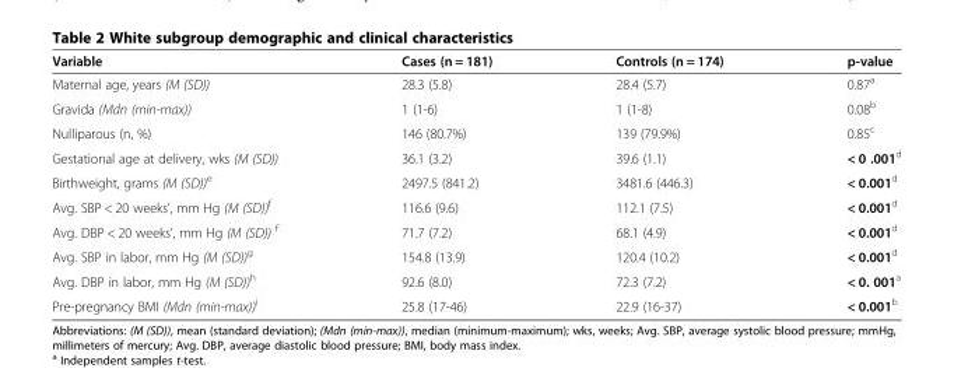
<table><thead><tr><td>Variable</td><td>Cases (n = 181)</td><td>Controls (n = 174)</td><td>p-value</td></tr></thead><tbody><tr><td>Maternal age, years (M (SD))</td><td>28.3 (5.8)</td><td>28.4 (5.7)</td><td>0.87<sup>a</sup></td></tr><tr><td>Gravida (Mdn (min-max))</td><td>1 (1-6)</td><td>1 (1-8)</td><td>0.08<sup>b</sup></td></tr><tr><td>Nulliparous (n, %)</td><td>146 (80.7%)</td><td>139 (79.9%)</td><td>0.85<sup>c</sup></td></tr><tr><td>Gestational age at delivery, wks (M (SD))</td><td>36.1 (3.2)</td><td>39.6 (1.1)</td><td>&lt; 0 .001<sup>d</sup></td></tr><tr><td>Birthweight, grams (M (SD))<sup>e</sup></td><td>2497.5 (841.2)</td><td>3481.6 (446.3)</td><td>&lt; 0.001<sup>d</sup></td></tr><tr><td>Avg. SBP &lt; 20 weeks’, mm Hg (M (SD))<sup>f</sup></td><td>116.6 (9.6)</td><td>112.1 (7.5)</td><td>&lt; 0.001<sup>d</sup></td></tr><tr><td>Avg. DBP &lt; 20 weeks’, mm Hg (M (SD)) <sup>f</sup></td><td>71.7 (7.2)</td><td>68.1 (4.9)</td><td>&lt; 0.001<sup>d</sup></td></tr><tr><td>Avg. SBP in labor, mm Hg (M (SD))<sup>g</sup></td><td>154.8 (13.9)</td><td>120.4 (10.2)</td><td>&lt; 0.001<sup>d</sup></td></tr><tr><td>Avg. DBP in labor, mm Hg (M (SD))<sup>h</sup></td><td>92.6 (8.0)</td><td>72.3 (7.2)</td><td>&lt; 0. 001<sup>a</sup></td></tr><tr><td>Pre-pregnancy BMI (Mdn (min-max))<sup>i</sup></td><td>25.8 (17-46)</td><td>22.9 (16-37)</td><td>&lt; 0.001<sup>b</sup></td></tr></tbody></table>